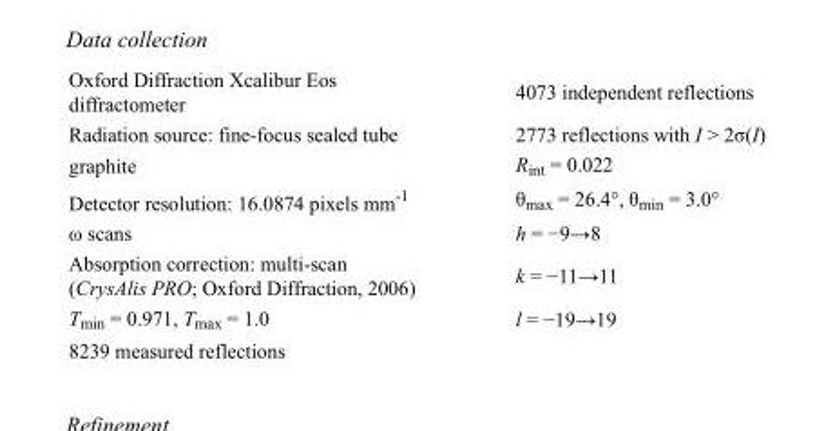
<table><tbody><tr><td>Oxford Diffraction Xcalibur Eos diffractometer</td><td>4073 independent reflections</td></tr><tr><td>Radiation source: fine-focus sealed tube</td><td>2773 reflections with I &gt; 2σ(I)</td></tr><tr><td>graphite</td><td>R<sub>int</sub> = 0.022</td></tr><tr><td>Detector resolution: 16.0874 pixels mm<sup>-1</sup></td><td>θ<sub>max</sub> = 26.4°, θ<sub>min</sub> = 3.0°</td></tr><tr><td>ω scans</td><td>h = −9→8</td></tr><tr><td>Absorption correction: multi-scan (CrysAlis PRO; Oxford Diffraction, 2006)</td><td>k = −11→11</td></tr><tr><td>T<sub>min</sub> = 0.971, T<sub>max</sub> = 1.0</td><td>l = −19→19</td></tr><tr><td>8239 measured reflections</td><td></td></tr></tbody></table>